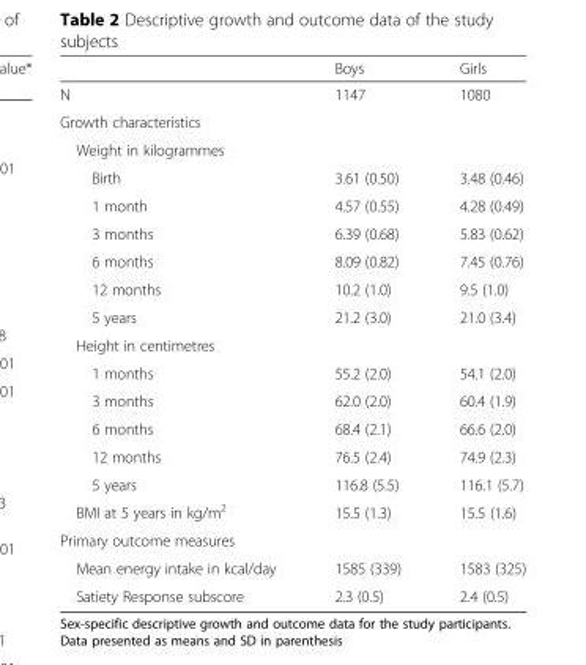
<table><thead><tr><td></td><td>Boys</td><td>Girls</td></tr></thead><tbody><tr><td>N</td><td>1147</td><td>1080</td></tr><tr><td colspan="3">Growth characteristics</td></tr><tr><td colspan="3">Weight in kilogrammes</td></tr><tr><td>Birth</td><td>3.61 (0.50)</td><td>3.48 (0.46)</td></tr><tr><td>1 month</td><td>4.57 (0.55)</td><td>4.28 (0.49)</td></tr><tr><td>3 months</td><td>6.39 (0.68)</td><td>5.83 (0.62)</td></tr><tr><td>6 months</td><td>8.09 (0.82)</td><td>7.45 (0.76)</td></tr><tr><td>12 months</td><td>10.2 (1.0)</td><td>9.5 (1.0)</td></tr><tr><td>5 years</td><td>21.2 (3.0)</td><td>21.0 (3.4)</td></tr><tr><td colspan="3">Height in centimetres</td></tr><tr><td>1 months</td><td>55.2 (2.0)</td><td>54.1 (2.0)</td></tr><tr><td>3 months</td><td>62.0 (2.0)</td><td>60.4 (1.9)</td></tr><tr><td>6 months</td><td>68.4 (2.1)</td><td>66.6 (2.0)</td></tr><tr><td>12 months</td><td>76.5 (2.4)</td><td>74.9 (2.3)</td></tr><tr><td>5 years</td><td>116.8 (5.5)</td><td>116.1 (5.7)</td></tr><tr><td>BMI at 5 years in kg/m<sup>2</sup></td><td>15.5 (1.3)</td><td>15.5 (1.6)</td></tr><tr><td colspan="3">Primary outcome measures</td></tr><tr><td>Mean energy intake in kcal/day</td><td>1585 (339)</td><td>1583 (325)</td></tr><tr><td>Satiety Response subscore</td><td>2.3 (0.5)</td><td>2.4 (0.5)</td></tr></tbody></table>